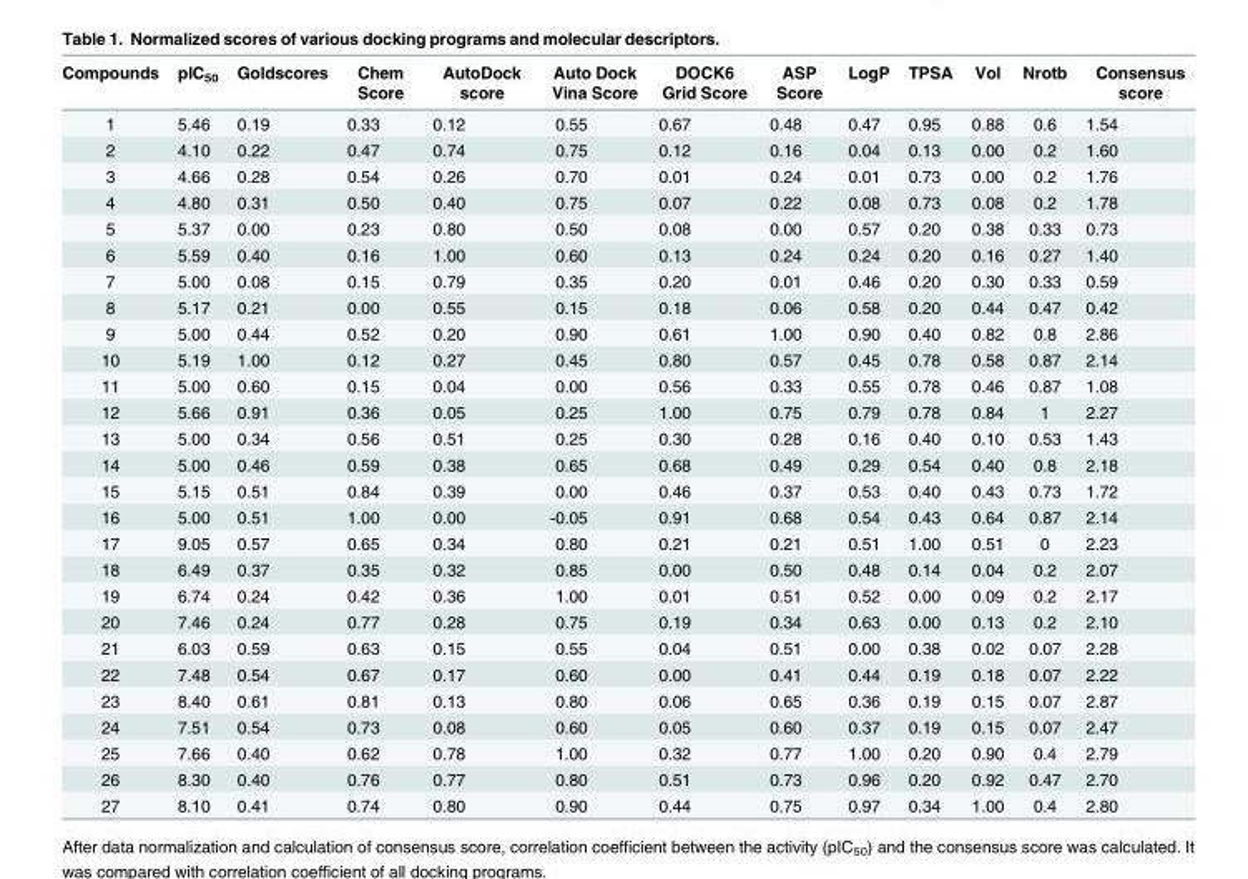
<table><thead><tr><td>Compounds</td><td>pIC<sub>50</sub></td><td>Goldscores</td><td>Chem Score</td><td>AutoDock score</td><td>Auto Dock Vina Score</td><td>DOCK6 Grid Score</td><td>ASP Score</td><td>LogP</td><td>TPSA</td><td>Vol</td><td>Nrotb</td><td>Consensus score</td></tr></thead><tbody><tr><td>1</td><td>5.46</td><td>0.19</td><td>0.33</td><td>0.12</td><td>0.55</td><td>0.67</td><td>0.48</td><td>0.47</td><td>0.95</td><td>0.88</td><td>0.6</td><td>1.54</td></tr><tr><td>2</td><td>4.10</td><td>0.22</td><td>0.47</td><td>0.74</td><td>0.75</td><td>0.12</td><td>0.16</td><td>0.04</td><td>0.13</td><td>0.00</td><td>0.2</td><td>1.60</td></tr><tr><td>3</td><td>4.66</td><td>0.28</td><td>0.54</td><td>0.26</td><td>0.70</td><td>0.01</td><td>0.24</td><td>0.01</td><td>0.73</td><td>0.00</td><td>0.2</td><td>1.76</td></tr><tr><td>4</td><td>4.80</td><td>0.31</td><td>0.50</td><td>0.40</td><td>0.75</td><td>0.07</td><td>0.22</td><td>0.08</td><td>0.73</td><td>0.08</td><td>0.2</td><td>1.78</td></tr><tr><td>5</td><td>5.37</td><td>0.00</td><td>0.23</td><td>0.80</td><td>0.50</td><td>0.08</td><td>0.00</td><td>0.57</td><td>0.20</td><td>0.38</td><td>0.33</td><td>0.73</td></tr><tr><td>6</td><td>5.59</td><td>0.40</td><td>0.16</td><td>1.00</td><td>0.60</td><td>0.13</td><td>0.24</td><td>0.24</td><td>0.20</td><td>0.16</td><td>0.27</td><td>1.40</td></tr><tr><td>7</td><td>5.00</td><td>0.08</td><td>0.15</td><td>0.79</td><td>0.35</td><td>0.20</td><td>0.01</td><td>0.46</td><td>0.20</td><td>0.30</td><td>0.33</td><td>0.59</td></tr><tr><td>8</td><td>5.17</td><td>0.21</td><td>0.00</td><td>0.55</td><td>0.15</td><td>0.18</td><td>0.06</td><td>0.58</td><td>0.20</td><td>0.44</td><td>0.47</td><td>0.42</td></tr><tr><td>9</td><td>5.00</td><td>0.44</td><td>0.52</td><td>0.20</td><td>0.90</td><td>0.61</td><td>1.00</td><td>0.90</td><td>0.40</td><td>0.82</td><td>0.8</td><td>2.86</td></tr><tr><td>10</td><td>5.19</td><td>1.00</td><td>0.12</td><td>0.27</td><td>0.45</td><td>0.80</td><td>0.57</td><td>0.45</td><td>0.78</td><td>0.58</td><td>0.87</td><td>2.14</td></tr><tr><td>11</td><td>5.00</td><td>0.60</td><td>0.15</td><td>0.04</td><td>0.00</td><td>0.56</td><td>0.33</td><td>0.55</td><td>0.78</td><td>0.46</td><td>0.87</td><td>1.08</td></tr><tr><td>12</td><td>5.66</td><td>0.91</td><td>0.36</td><td>0.05</td><td>0.25</td><td>1.00</td><td>0.75</td><td>0.79</td><td>0.78</td><td>0.84</td><td>1</td><td>2.27</td></tr><tr><td>13</td><td>5.00</td><td>0.34</td><td>0.56</td><td>0.51</td><td>0.25</td><td>0.30</td><td>0.28</td><td>0.16</td><td>0.40</td><td>0.10</td><td>0.53</td><td>1.43</td></tr><tr><td>14</td><td>5.00</td><td>0.46</td><td>0.59</td><td>0.38</td><td>0.65</td><td>0.68</td><td>0.49</td><td>0.29</td><td>0.54</td><td>0.40</td><td>0.8</td><td>2.18</td></tr><tr><td>15</td><td>5.15</td><td>0.51</td><td>0.84</td><td>0.39</td><td>0.00</td><td>0.46</td><td>0.37</td><td>0.53</td><td>0.40</td><td>0.43</td><td>0.73</td><td>1.72</td></tr><tr><td>16</td><td>5.00</td><td>0.51</td><td>1.00</td><td>0.00</td><td>-0.05</td><td>0.91</td><td>0.68</td><td>0.54</td><td>0.43</td><td>0.64</td><td>0.87</td><td>2.14</td></tr><tr><td>17</td><td>9.05</td><td>0.57</td><td>0.65</td><td>0.34</td><td>0.80</td><td>0.21</td><td>0.21</td><td>0.51</td><td>1.00</td><td>0.51</td><td>0</td><td>2.23</td></tr><tr><td>18</td><td>6.49</td><td>0.37</td><td>0.35</td><td>0.32</td><td>0.85</td><td>0.00</td><td>0.50</td><td>0.48</td><td>0.14</td><td>0.04</td><td>0.2</td><td>2.07</td></tr><tr><td>19</td><td>6.74</td><td>0.24</td><td>0.42</td><td>0.36</td><td>1.00</td><td>0.01</td><td>0.51</td><td>0.52</td><td>0.00</td><td>0.09</td><td>0.2</td><td>2.17</td></tr><tr><td>20</td><td>7.46</td><td>0.24</td><td>0.77</td><td>0.28</td><td>0.75</td><td>0.19</td><td>0.34</td><td>0.63</td><td>0.00</td><td>0.13</td><td>0.2</td><td>2.10</td></tr><tr><td>21</td><td>6.03</td><td>0.59</td><td>0.63</td><td>0.15</td><td>0.55</td><td>0.04</td><td>0.51</td><td>0.00</td><td>0.38</td><td>0.02</td><td>0.07</td><td>2.28</td></tr><tr><td>22</td><td>7.48</td><td>0.54</td><td>0.67</td><td>0.17</td><td>0.60</td><td>0.00</td><td>0.41</td><td>0.44</td><td>0.19</td><td>0.18</td><td>0.07</td><td>2.22</td></tr><tr><td>23</td><td>8.40</td><td>0.61</td><td>0.81</td><td>0.13</td><td>0.80</td><td>0.06</td><td>0.65</td><td>0.36</td><td>0.19</td><td>0.15</td><td>0.07</td><td>2.87</td></tr><tr><td>24</td><td>7.51</td><td>0.54</td><td>0.73</td><td>0.08</td><td>0.60</td><td>0.05</td><td>0.60</td><td>0.37</td><td>0.19</td><td>0.15</td><td>0.07</td><td>2.47</td></tr><tr><td>25</td><td>7.66</td><td>0.40</td><td>0.62</td><td>0.78</td><td>1.00</td><td>0.32</td><td>0.77</td><td>1.00</td><td>0.20</td><td>0.90</td><td>0.4</td><td>2.79</td></tr><tr><td>26</td><td>8.30</td><td>0.40</td><td>0.76</td><td>0.77</td><td>0.80</td><td>0.51</td><td>0.73</td><td>0.96</td><td>0.20</td><td>0.92</td><td>0.47</td><td>2.70</td></tr><tr><td>27</td><td>8.10</td><td>0.41</td><td>0.74</td><td>0.80</td><td>0.90</td><td>0.44</td><td>0.75</td><td>0.97</td><td>0.34</td><td>1.00</td><td>0.4</td><td>2.80</td></tr></tbody></table>